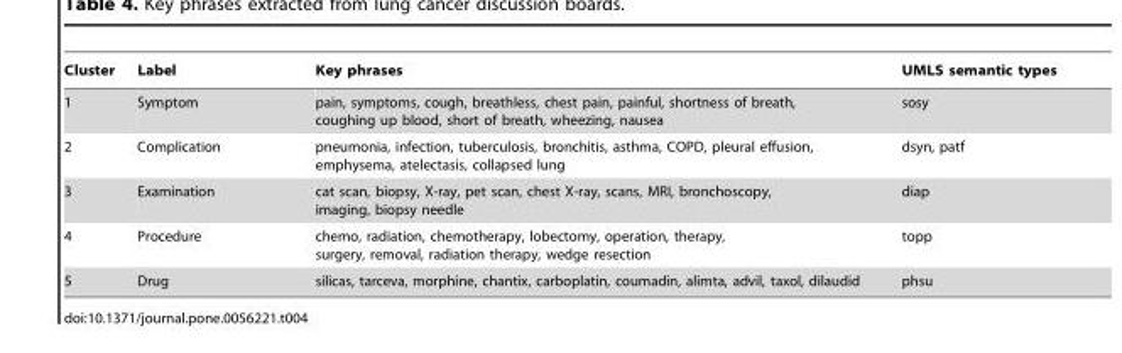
<table><thead><tr><td>Cluster</td><td>Label</td><td>Key phrases</td><td>UMLS semantic types</td></tr></thead><tbody><tr><td>1</td><td>Symptom</td><td>pain, symptoms, cough, breathless, chest pain, painful, shortness of breath, coughing up blood, short of breath, wheezing, nausea</td><td>sosy</td></tr><tr><td>2</td><td>Complication</td><td>pneumonia, infection, tuberculosis, bronchitis, asthma, COPD, pleural effusion, emphysema, atelectasis, collapsed lung</td><td>dsyn, patf</td></tr><tr><td>3</td><td>Examination</td><td>cat scan, biopsy, X-ray, pet scan, chest X-ray, scans, MRI, bronchoscopy, imaging, biopsy needle</td><td>diap</td></tr><tr><td>4</td><td>Procedure</td><td>chemo, radiation, chemotherapy, lobectomy, operation, therapy, surgery, removal, radiation therapy, wedge resection</td><td>topp</td></tr><tr><td>5</td><td>Drug</td><td>silicas, tarceva, morphine, chantix, carboplatin, coumadin, alimta, advil, taxol, dilaudid</td><td>phsu</td></tr></tbody></table>